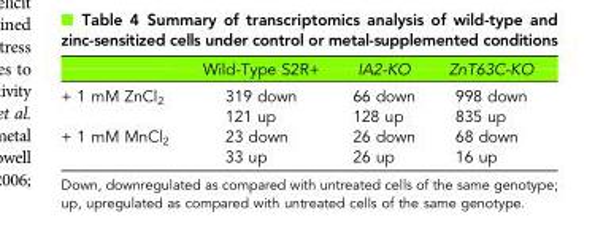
<table><thead><tr><td></td><td>Wild-Type S2R+</td><td>IA2-KO</td><td>ZnT63C-KO</td></tr></thead><tbody><tr><td rowspan="2">+ 1 mM ZnCl<sub>2</sub></td><td>319 down</td><td>66 down</td><td>998 down</td></tr><tr><td>121 up</td><td>128 up</td><td>835 up</td></tr><tr><td rowspan="2">+ 1 mM MnCl<sub>2</sub></td><td>23 down</td><td>26 down</td><td>68 down</td></tr><tr><td>33 up</td><td>26 up</td><td>16 up</td></tr></tbody></table>